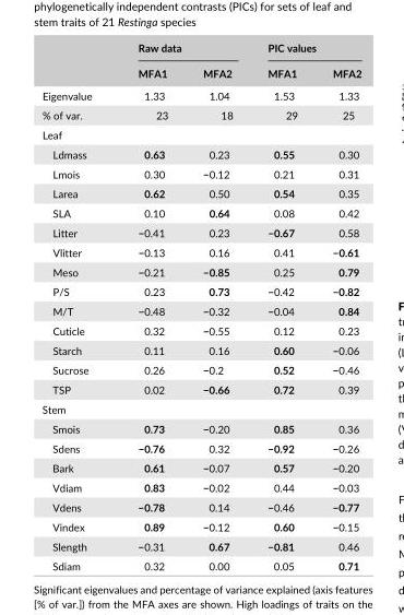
<table><thead><tr><td rowspan="2"></td><td colspan="2">Raw data</td><td colspan="2">PIC values</td></tr><tr><td>MFA1</td><td>MFA2</td><td>MFA1</td><td>MFA2</td></tr></thead><tbody><tr><td>Eigenvalue</td><td>1.33</td><td>1.04</td><td>1.53</td><td>1.33</td></tr><tr><td>% of var.</td><td>23</td><td>18</td><td>29</td><td>25</td></tr><tr><td colspan="5">Leaf</td></tr><tr><td>Ldmass</td><td>0.63</td><td>0.23</td><td>0.55</td><td>0.30</td></tr><tr><td>Lmois</td><td>0.30</td><td>−0.12</td><td>0.21</td><td>0.31</td></tr><tr><td>Larea</td><td>0.62</td><td>0.50</td><td>0.54</td><td>0.35</td></tr><tr><td>SLA</td><td>0.10</td><td>0.64</td><td>0.08</td><td>0.42</td></tr><tr><td>Litter</td><td>−0.41</td><td>0.23</td><td>−0.67</td><td>0.58</td></tr><tr><td>Vlitter</td><td>−0.13</td><td>0.16</td><td>0.41</td><td>−0.61</td></tr><tr><td>Meso</td><td>−0.21</td><td>−0.85</td><td>0.25</td><td>0.79</td></tr><tr><td>P/S</td><td>0.23</td><td>0.73</td><td>−0.42</td><td>−0.82</td></tr><tr><td>M/T</td><td>−0.48</td><td>−0.32</td><td>−0.04</td><td>0.84</td></tr><tr><td>Cuticle</td><td>0.32</td><td>−0.55</td><td>0.12</td><td>0.23</td></tr><tr><td>Starch</td><td>0.11</td><td>0.16</td><td>0.60</td><td>−0.06</td></tr><tr><td>Sucrose</td><td>0.26</td><td>−0.2</td><td>0.52</td><td>−0.46</td></tr><tr><td>TSP</td><td>0.02</td><td>−0.66</td><td>0.72</td><td>0.39</td></tr><tr><td colspan="5">Stem</td></tr><tr><td>Smois</td><td>0.73</td><td>−0.20</td><td>0.85</td><td>0.36</td></tr><tr><td>Sdens</td><td>−0.76</td><td>0.32</td><td>−0.92</td><td>−0.26</td></tr><tr><td>Bark</td><td>0.61</td><td>−0.07</td><td>0.57</td><td>−0.20</td></tr><tr><td>Vdiam</td><td>0.83</td><td>−0.02</td><td>0.44</td><td>−0.03</td></tr><tr><td>Vdens</td><td>−0.78</td><td>0.14</td><td>−0.46</td><td>−0.77</td></tr><tr><td>Vindex</td><td>0.89</td><td>−0.12</td><td>0.60</td><td>−0.15</td></tr><tr><td>Slength</td><td>−0.31</td><td>0.67</td><td>−0.81</td><td>0.46</td></tr><tr><td>Sdiam</td><td>0.32</td><td>0.00</td><td>0.05</td><td>0.71</td></tr></tbody></table>